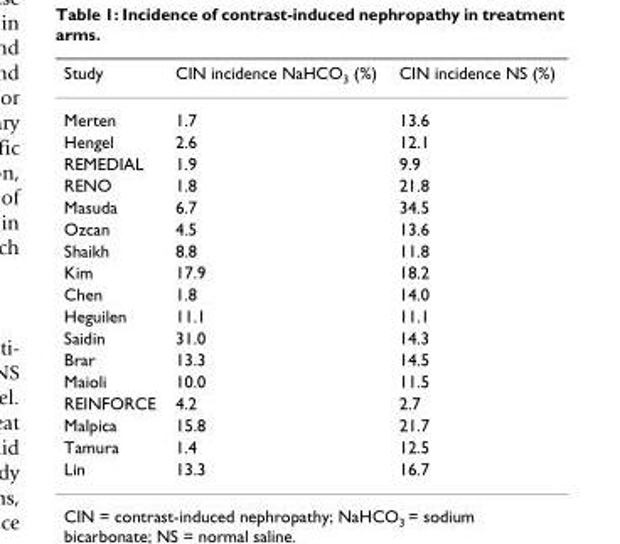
<table><thead><tr><td>Study</td><td>CIN incidence NaHCO<sub>3</sub> (%)</td><td>CIN incidence NS (%)</td></tr></thead><tbody><tr><td>Merten</td><td>1.7</td><td>13.6</td></tr><tr><td>Hengel</td><td>2.6</td><td>12.1</td></tr><tr><td>REMEDIAL</td><td>1.9</td><td>9.9</td></tr><tr><td>RENO</td><td>1.8</td><td>21.8</td></tr><tr><td>Masuda</td><td>6.7</td><td>34.5</td></tr><tr><td>Ozcan</td><td>4.5</td><td>13.6</td></tr><tr><td>Shaikh</td><td>8.8</td><td>11.8</td></tr><tr><td>Kim</td><td>17.9</td><td>18.2</td></tr><tr><td>Chen</td><td>1.8</td><td>14.0</td></tr><tr><td>Heguilen</td><td>11.1</td><td>11.1</td></tr><tr><td>Saidin</td><td>31.0</td><td>14.3</td></tr><tr><td>Brar</td><td>13.3</td><td>14.5</td></tr><tr><td>Maioli</td><td>10.0</td><td>11.5</td></tr><tr><td>REINFORCE</td><td>4.2</td><td>2.7</td></tr><tr><td>Malpica</td><td>15.8</td><td>21.7</td></tr><tr><td>Tamura</td><td>1.4</td><td>12.5</td></tr><tr><td>Lin</td><td>13.3</td><td>16.7</td></tr></tbody></table>